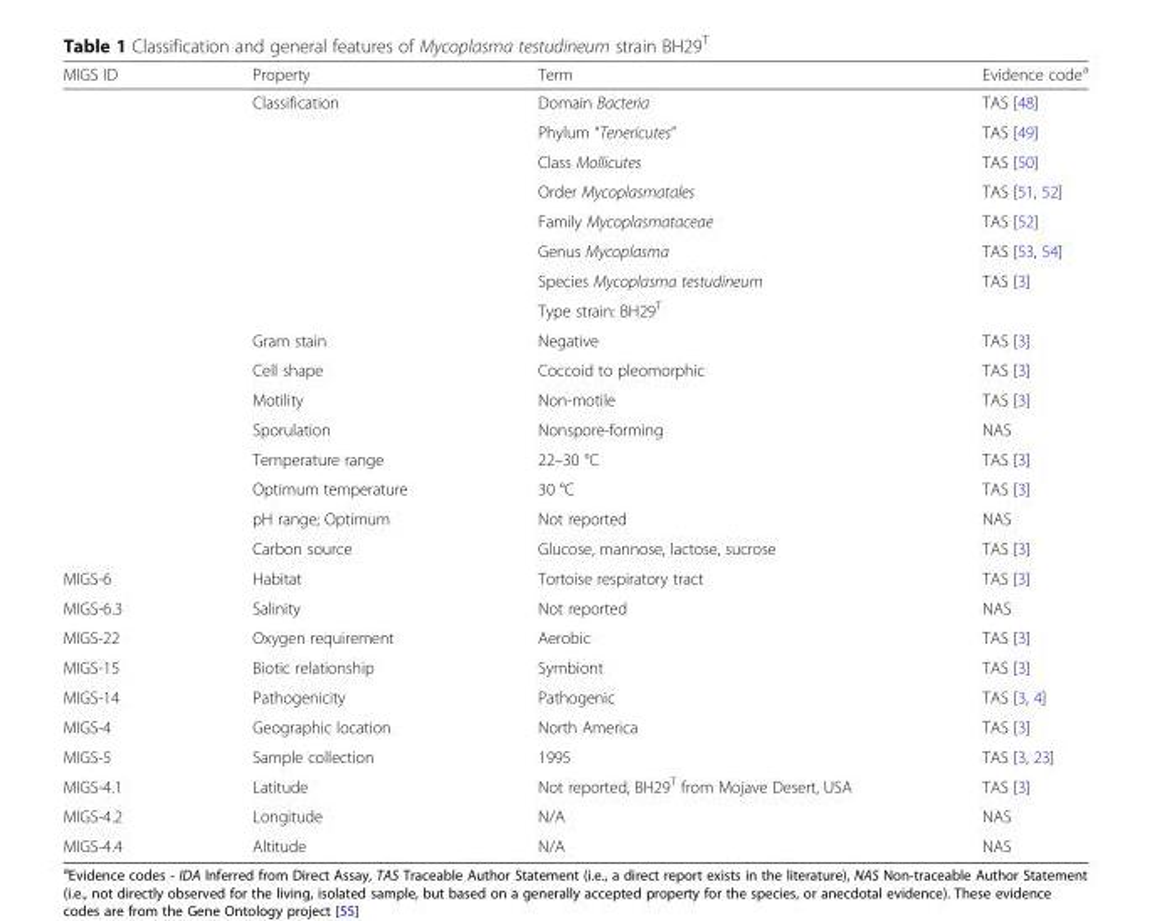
<table><thead><tr><td>MIGS ID</td><td>Property</td><td>Term</td><td>Evidence code<sup>a</sup></td></tr></thead><tbody><tr><td></td><td>Classification</td><td>Domain Bacteria</td><td>TAS [48]</td></tr><tr><td></td><td></td><td>Phylum “Tenericutes”</td><td>TAS [49]</td></tr><tr><td></td><td></td><td>Class Mollicutes</td><td>TAS [50]</td></tr><tr><td></td><td></td><td>Order Mycoplasmatales</td><td>TAS [51, 52]</td></tr><tr><td></td><td></td><td>Family Mycoplasmataceae</td><td>TAS [52]</td></tr><tr><td></td><td></td><td>Genus Mycoplasma</td><td>TAS [53, 54]</td></tr><tr><td></td><td></td><td>Species Mycoplasma testudineum</td><td>TAS [3]</td></tr><tr><td></td><td></td><td>Type strain: BH29<sup>T</sup></td><td></td></tr><tr><td></td><td>Gram stain</td><td>Negative</td><td>TAS [3]</td></tr><tr><td></td><td>Cell shape</td><td>Coccoid to pleomorphic</td><td>TAS [3]</td></tr><tr><td></td><td>Motility</td><td>Non-motile</td><td>TAS [3]</td></tr><tr><td></td><td>Sporulation</td><td>Nonspore-forming</td><td>NAS</td></tr><tr><td></td><td>Temperature range</td><td>22–30 °C</td><td>TAS [3]</td></tr><tr><td></td><td>Optimum temperature</td><td>30 °C</td><td>TAS [3]</td></tr><tr><td></td><td>pH range; Optimum</td><td>Not reported</td><td>NAS</td></tr><tr><td></td><td>Carbon source</td><td>Glucose, mannose, lactose, sucrose</td><td>TAS [3]</td></tr><tr><td>MIGS-6</td><td>Habitat</td><td>Tortoise respiratory tract</td><td>TAS [3]</td></tr><tr><td>MIGS-6.3</td><td>Salinity</td><td>Not reported</td><td>NAS</td></tr><tr><td>MIGS-22</td><td>Oxygen requirement</td><td>Aerobic</td><td>TAS [3]</td></tr><tr><td>MIGS-15</td><td>Biotic relationship</td><td>Symbiont</td><td>TAS [3]</td></tr><tr><td>MIGS-14</td><td>Pathogenicity</td><td>Pathogenic</td><td>TAS [3, 4]</td></tr><tr><td>MIGS-4</td><td>Geographic location</td><td>North America</td><td>TAS [3]</td></tr><tr><td>MIGS-5</td><td>Sample collection</td><td>1995</td><td>TAS [3, 23]</td></tr><tr><td>MIGS-4.1</td><td>Latitude</td><td>Not reported, BH29<sup>T</sup> from Mojave Desert, USA</td><td>TAS [3]</td></tr><tr><td>MIGS-4.2</td><td>Longitude</td><td>N/A</td><td>NAS</td></tr><tr><td>MIGS-4.4</td><td>Altitude</td><td>N/A</td><td>NAS</td></tr></tbody></table>